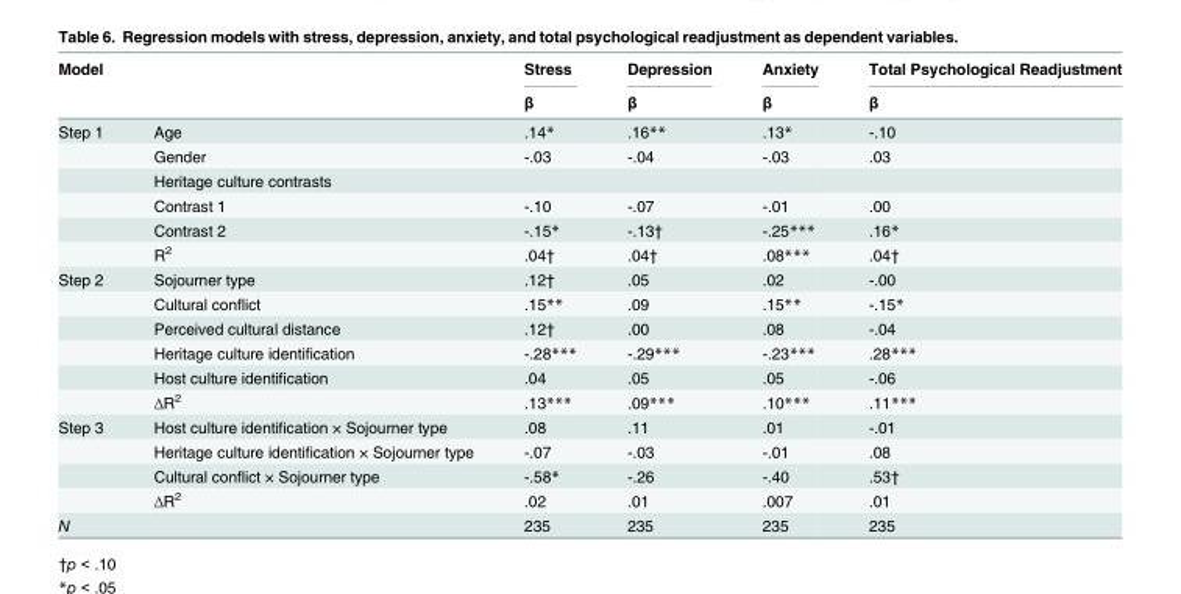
<table><thead><tr><td rowspan="2">Model</td><td rowspan="2"></td><td rowspan="2">Stress β</td><td rowspan="2">Depression β</td><td rowspan="2">Anxiety β</td><td rowspan="2">Total Psychological Readjustment β</td></tr><tr></tr></thead><tbody><tr><td rowspan="6">Step 1</td><td>Age</td><td>.14*</td><td>.16**</td><td>.13*</td><td>-.10</td></tr><tr><td>Gender</td><td>-.03</td><td>-.04</td><td>-.03</td><td>.03</td></tr><tr><td>Heritage culture contrasts</td><td></td><td></td><td></td><td></td></tr><tr><td>Contrast 1</td><td>-.10</td><td>-.07</td><td>-.01</td><td>.00</td></tr><tr><td>Contrast 2</td><td>-.15*</td><td>-.13†</td><td>-.25***</td><td>.16*</td></tr><tr><td>R<sup>2</sup></td><td>.04†</td><td>.04†</td><td>.08***</td><td>.04†</td></tr><tr><td rowspan="6">Step 2</td><td>Sojourner type</td><td>.12†</td><td>.05</td><td>.02</td><td>-.00</td></tr><tr><td>Cultural conflict</td><td>.15**</td><td>.09</td><td>.15**</td><td>-.15*</td></tr><tr><td>Perceived cultural distance</td><td>.12†</td><td>.00</td><td>.08</td><td>-.04</td></tr><tr><td>Heritage culture identification</td><td>-.28***</td><td>-.29***</td><td>-.23***</td><td>.28***</td></tr><tr><td>Host culture identification</td><td>.04</td><td>.05</td><td>.05</td><td>-.06</td></tr><tr><td>ΔR2</td><td>.13***</td><td>.09***</td><td>.10***</td><td>.11***</td></tr><tr><td rowspan="4">Step 3</td><td>Host culture identification × Sojourner type</td><td>.08</td><td>.11</td><td>.01</td><td>-.01</td></tr><tr><td>Heritage culture identification × Sojourner type</td><td>-.07</td><td>-.03</td><td>-.01</td><td>.08</td></tr><tr><td>Cultural conflict × Sojourner type</td><td>-.58*</td><td>-.26</td><td>-.40</td><td>.53†</td></tr><tr><td>ΔR2</td><td>.02</td><td>.01</td><td>.007</td><td>.01</td></tr><tr><td>N</td><td></td><td>235</td><td>235</td><td>235</td><td>235</td></tr></tbody></table>